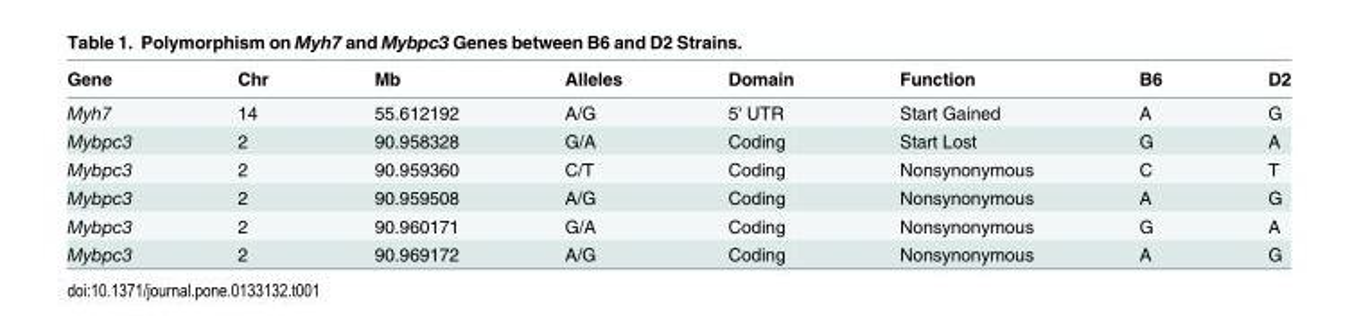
<table><thead><tr><td>Gene</td><td>Chr</td><td>Mb</td><td>Alleles</td><td>Domain</td><td>Function</td><td>B6</td><td>D2</td></tr></thead><tbody><tr><td>Myh7</td><td>14</td><td>55.612192</td><td>A/G</td><td>5&#x27; UTR</td><td>Start Gained</td><td>A</td><td>G</td></tr><tr><td>Mybpc3</td><td>2</td><td>90.958328</td><td>G/A</td><td>Coding</td><td>Start Lost</td><td>G</td><td>A</td></tr><tr><td>Mybpc3</td><td>2</td><td>90.959360</td><td>C/T</td><td>Coding</td><td>Nonsynonymous</td><td>C</td><td>T</td></tr><tr><td>Mybpc3</td><td>2</td><td>90.959508</td><td>A/G</td><td>Coding</td><td>Nonsynonymous</td><td>A</td><td>G</td></tr><tr><td>Mybpc3</td><td>2</td><td>90.960171</td><td>G/A</td><td>Coding</td><td>Nonsynonymous</td><td>G</td><td>A</td></tr><tr><td>Mybpc3</td><td>2</td><td>90.969172</td><td>A/G</td><td>Coding</td><td>Nonsynonymous</td><td>A</td><td>G</td></tr></tbody></table>